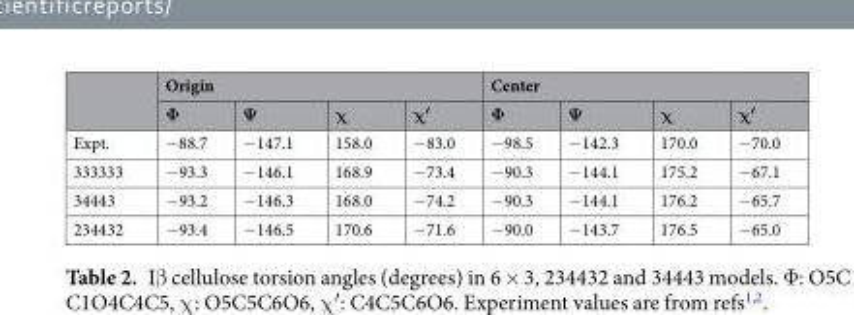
<table><thead><tr><td rowspan="2"></td><td colspan="4">Origin</td><td colspan="4">Center</td></tr><tr><td>Φ</td><td>Ψ</td><td>χ</td><td>χ′</td><td>Φ</td><td>Ψ</td><td>χ</td><td>χ′</td></tr></thead><tbody><tr><td>Expt.</td><td>−88.7</td><td>−147.1</td><td>158.0</td><td>−83.0</td><td>−98.5</td><td>−142.3</td><td>170.0</td><td>−70.0</td></tr><tr><td>333333</td><td>−93.3</td><td>−146.1</td><td>168.9</td><td>−73.4</td><td>−90.3</td><td>−144.1</td><td>175.2</td><td>−67.1</td></tr><tr><td>34443</td><td>−93.2</td><td>−146.3</td><td>168.0</td><td>−74.2</td><td>−90.3</td><td>−144.1</td><td>176.2</td><td>−65.7</td></tr><tr><td>234432</td><td>−93.4</td><td>−146.5</td><td>170.6</td><td>−71.6</td><td>−90.0</td><td>−143.7</td><td>176.5</td><td>−65.0</td></tr></tbody></table>